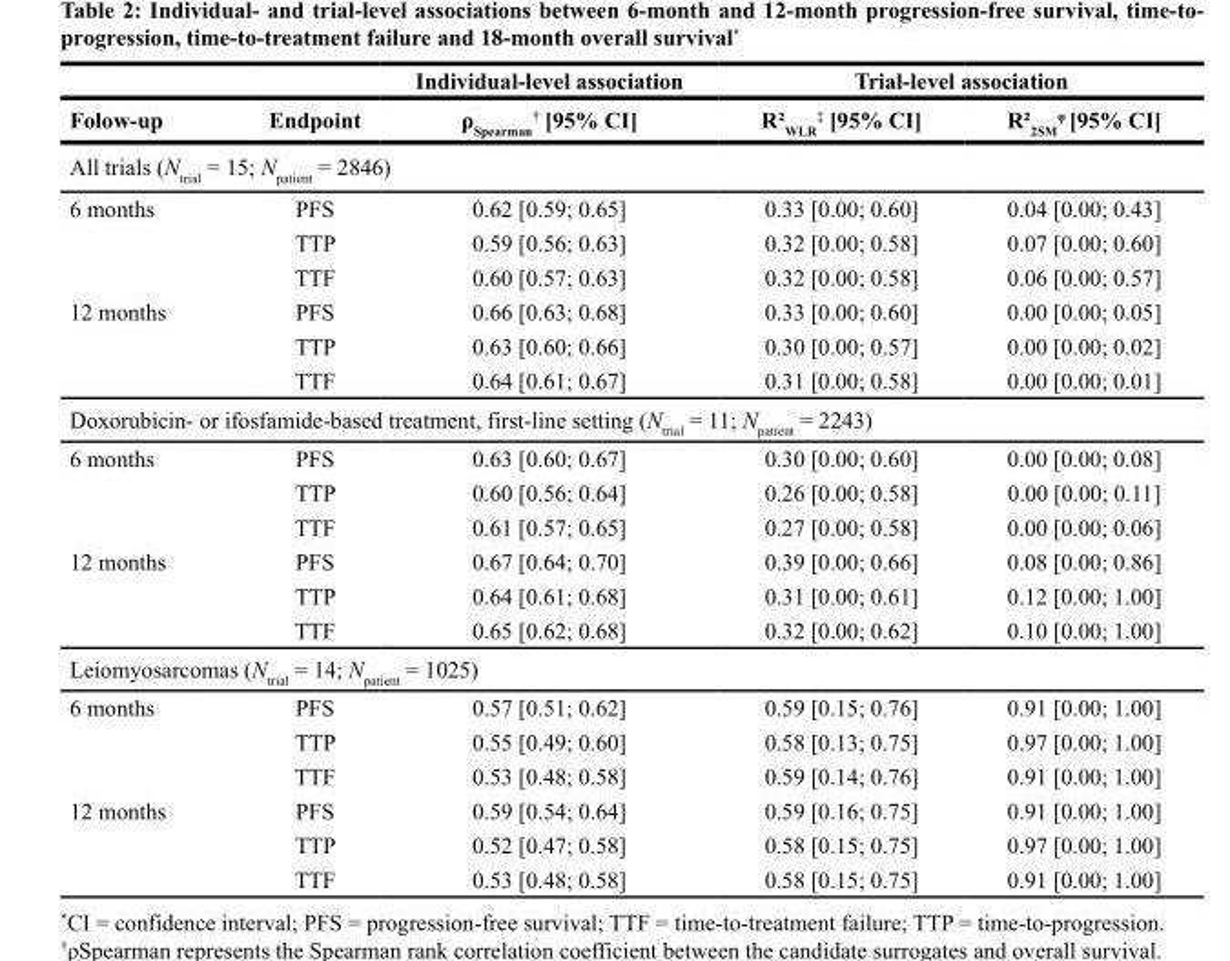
<table><thead><tr><td rowspan="2">Folow-up</td><td rowspan="2">Endpoint</td><td rowspan="2">Individual-level association ρ<sub>Spearman</sub> <sup>†</sup> [95% CI]</td><td colspan="2">Trial-level association</td></tr><tr><td>R²<sub>WLR</sub> <sup>‡</sup> [95% CI]</td><td>R²<sub>2SM</sub> <sup>φ</sup> [95% CI]</td></tr></thead><tbody><tr><td colspan="5">All trials (N<sub>trial</sub> = 15; N<sub>patient</sub> = 2846)</td></tr><tr><td rowspan="3">6 months</td><td>PFS</td><td>0.62 [0.59; 0.65]</td><td>0.33 [0.00; 0.60]</td><td>0.04 [0.00; 0.43]</td></tr><tr><td>TTP</td><td>0.59 [0.56; 0.63]</td><td>0.32 [0.00; 0.58]</td><td>0.07 [0.00; 0.60]</td></tr><tr><td>TTF</td><td>0.60 [0.57; 0.63]</td><td>0.32 [0.00; 0.58]</td><td>0.06 [0.00; 0.57]</td></tr><tr><td rowspan="3">12 months</td><td>PFS</td><td>0.66 [0.63; 0.68]</td><td>0.33 [0.00; 0.60]</td><td>0.00 [0.00; 0.05]</td></tr><tr><td>TTP</td><td>0.63 [0.60; 0.66]</td><td>0.30 [0.00; 0.57]</td><td>0.00 [0.00; 0.02]</td></tr><tr><td>TTF</td><td>0.64 [0.61; 0.67]</td><td>0.31 [0.00; 0.58]</td><td>0.00 [0.00; 0.01]</td></tr><tr><td colspan="5">Doxorubicin- or ifosfamide-based treatment, first-line setting (N<sub>trial</sub> = 11; N<sub>patient</sub> = 2243)</td></tr><tr><td rowspan="3">6 months</td><td>PFS</td><td>0.63 [0.60; 0.67]</td><td>0.30 [0.00; 0.60]</td><td>0.00 [0.00; 0.08]</td></tr><tr><td>TTP</td><td>0.60 [0.56; 0.64]</td><td>0.26 [0.00; 0.58]</td><td>0.00 [0.00; 0.11]</td></tr><tr><td>TTF</td><td>0.61 [0.57; 0.65]</td><td>0.27 [0.00; 0.58]</td><td>0.00 [0.00; 0.06]</td></tr><tr><td rowspan="3">12 months</td><td>PFS</td><td>0.67 [0.64; 0.70]</td><td>0.39 [0.00; 0.66]</td><td>0.08 [0.00; 0.86]</td></tr><tr><td>TTP</td><td>0.64 [0.61; 0.68]</td><td>0.31 [0.00; 0.61]</td><td>0.12 [0.00; 1.00]</td></tr><tr><td>TTF</td><td>0.65 [0.62; 0.68]</td><td>0.32 [0.00; 0.62]</td><td>0.10 [0.00; 1.00]</td></tr><tr><td colspan="5">Leiomyosarcomas (N<sub>trial</sub> = 14; N<sub>patient</sub> = 1025)</td></tr><tr><td rowspan="3">6 months</td><td>PFS</td><td>0.57 [0.51; 0.62]</td><td>0.59 [0.15; 0.76]</td><td>0.91 [0.00; 1.00]</td></tr><tr><td>TTP</td><td>0.55 [0.49; 0.60]</td><td>0.58 [0.13; 0.75]</td><td>0.97 [0.00; 1.00]</td></tr><tr><td>TTF</td><td>0.53 [0.48; 0.58]</td><td>0.59 [0.14; 0.76]</td><td>0.91 [0.00; 1.00]</td></tr><tr><td rowspan="3">12 months</td><td>PFS</td><td>0.59 [0.54; 0.64]</td><td>0.59 [0.16; 0.75]</td><td>0.91 [0.00; 1.00]</td></tr><tr><td>TTP</td><td>0.52 [0.47; 0.58]</td><td>0.58 [0.15; 0.75]</td><td>0.97 [0.00; 1.00]</td></tr><tr><td>TTF</td><td>0.53 [0.48; 0.58]</td><td>0.58 [0.15; 0.75]</td><td>0.91 [0.00; 1.00]</td></tr></tbody></table>